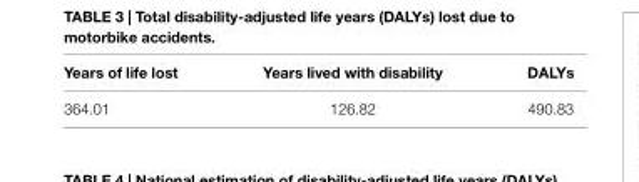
<table><thead><tr><td>Years of life lost</td><td>Years lived with disability</td><td>DalYs</td></tr></thead><tbody><tr><td>364.01</td><td>126.82</td><td>490.83</td></tr></tbody></table>